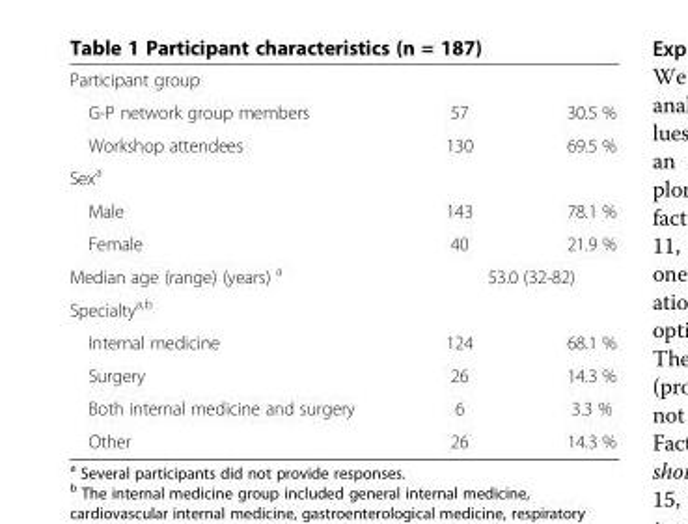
<table><tbody><tr><td colspan="3">Participant group</td></tr><tr><td>G-P network group members</td><td>57</td><td>30.5 %</td></tr><tr><td>Workshop attendees</td><td>130</td><td>69.5 %</td></tr><tr><td colspan="3">Sex<sup>a</sup></td></tr><tr><td>Male</td><td>143</td><td>78.1 %</td></tr><tr><td>Female</td><td>40</td><td>21.9 %</td></tr><tr><td>Median age (range) (years) <sup>a</sup></td><td colspan="2">53.0 (32-82)</td></tr><tr><td colspan="3">Specialty<sup>a,b</sup></td></tr><tr><td>Internal medicine</td><td>124</td><td>68.1 %</td></tr><tr><td>Surgery</td><td>26</td><td>14.3 %</td></tr><tr><td>Both internal medicine and surgery</td><td>6</td><td>3.3 %</td></tr><tr><td>Other</td><td>26</td><td>14.3 %</td></tr></tbody></table>